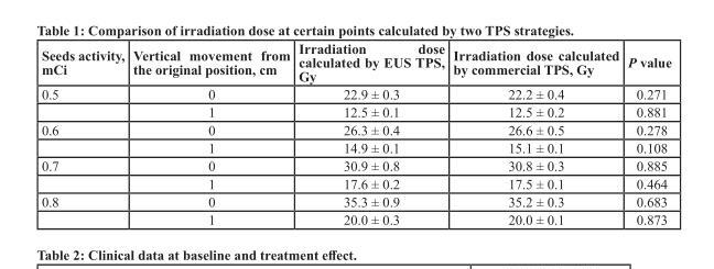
<table><thead><tr><td>Seeds activity, mCi</td><td>Vertical movement from the original position, cm</td><td>Irradiation dose calculated by EUS TPS, Gy</td><td>Irradiation dose calculated by commercial TPS, Gy</td><td>P value</td></tr></thead><tbody><tr><td rowspan="2">0.5</td><td>0</td><td>22.9 ± 0.3</td><td>22.2 ± 0.4</td><td>0.271</td></tr><tr><td>1</td><td>12.5 ± 0.1</td><td>12.5 ± 0.2</td><td>0.881</td></tr><tr><td rowspan="2">0.6</td><td>0</td><td>26.3 ± 0.4</td><td>26.6 ± 0.5</td><td>0.278</td></tr><tr><td>1</td><td>14.9 ± 0.1</td><td>15.1 ± 0.1</td><td>0.108</td></tr><tr><td rowspan="2">0.7</td><td>0</td><td>30.9 ± 0.8</td><td>30.8 ± 0.3</td><td>0.885</td></tr><tr><td>1</td><td>17.6 ± 0.2</td><td>17.5 ± 0.1</td><td>0.464</td></tr><tr><td rowspan="2">0.8</td><td>0</td><td>35.3 ± 0.9</td><td>35.2 ± 0.3</td><td>0.683</td></tr><tr><td>1</td><td>20.0 ± 0.3</td><td>20.0 ± 0.1</td><td>0.873</td></tr></tbody></table>